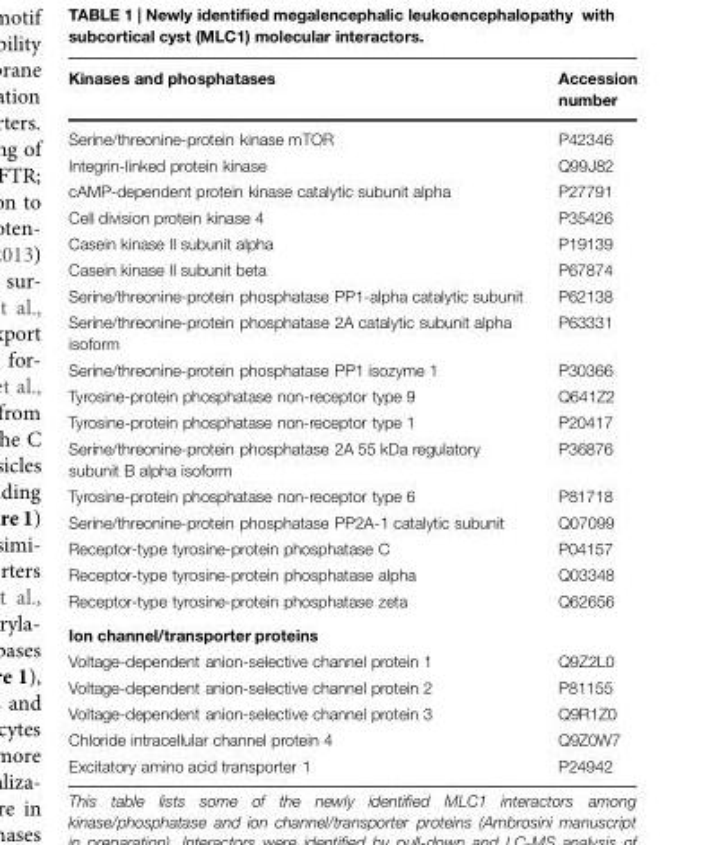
<table><thead><tr><td>Kinases and phosphatases</td><td>Accession number</td></tr></thead><tbody><tr><td>Serine/threonine-protein kinase mTOR</td><td>P42346</td></tr><tr><td>Integrin-linked protein kinase</td><td>Q99J82</td></tr><tr><td>cAMP-dependent protein kinase catalytic subunit alpha</td><td>P27791</td></tr><tr><td>Cell division protein kinase 4</td><td>P35426</td></tr><tr><td>Casein kinase II subunit alpha</td><td>P19139</td></tr><tr><td>Casein kinase II subunit beta</td><td>P67874</td></tr><tr><td>Serine/threonine-protein phosphatase PP1-alpha catalytic subunit</td><td>P62138</td></tr><tr><td>Serine/threonine-protein phosphatase 2A catalytic subunit alpha isoform</td><td>P63331</td></tr><tr><td>Serine/threonine-protein phosphatase PP1 isozyme 1</td><td>P30366</td></tr><tr><td>Tyrosine-protein phosphatase non-receptor type 9</td><td>Q641Z2</td></tr><tr><td>Tyrosine-protein phosphatase non-receptor type 1</td><td>P20417</td></tr><tr><td>Serine/threonine-protein phosphatase 2A 55 kDa regulatory subunit B alpha isoform</td><td>P36876</td></tr><tr><td>Tyrosine-protein phosphatase non-receptor type 6</td><td>P81718</td></tr><tr><td>Serine/threonine-protein phosphatase PP2A-1 catalytic subunit</td><td>Q07099</td></tr><tr><td>Receptor-type tyrosine-protein phosphatase C</td><td>P04157</td></tr><tr><td>Receptor-type tyrosine-protein phosphatase alpha</td><td>Q03348</td></tr><tr><td>Receptor-type tyrosine-protein phosphatase zeta</td><td>Q62656</td></tr><tr><td colspan="2">Ion channel/transporter proteins</td></tr><tr><td>Voltage-dependent anion-selective channel protein 1</td><td>Q9Z2L0</td></tr><tr><td>Voltage-dependent anion-selective channel protein 2</td><td>P81155</td></tr><tr><td>Voltage-dependent anion-selective channel protein 3</td><td>Q9R1Z0</td></tr><tr><td>Chloride intracellular channel protein 4</td><td>Q9Z0W7</td></tr><tr><td>Excitatory amino acid transporter 1</td><td>P24942</td></tr></tbody></table>